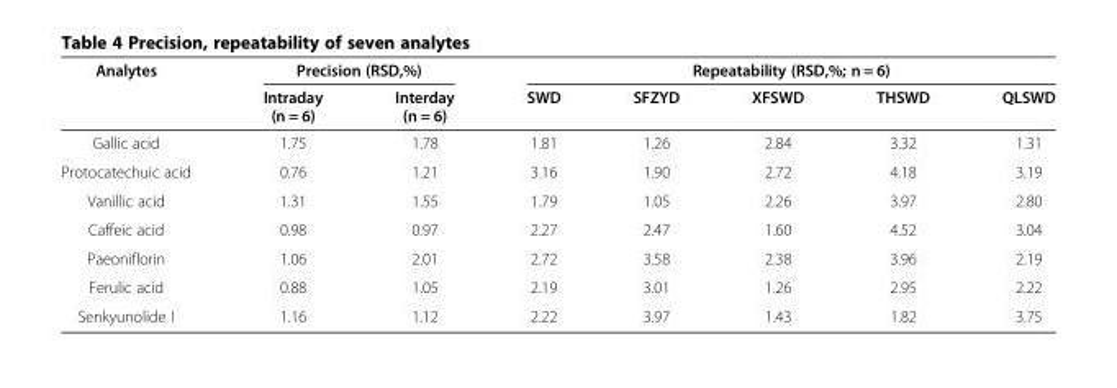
<table><thead><tr><td rowspan="2">Analytes</td><td colspan="2">Precision (RSD,%)</td><td colspan="5">Repeatability (RSD,%; n = 6)</td></tr><tr><td>Intraday (n = 6)</td><td>Interday (n = 6)</td><td>SWD</td><td>SFZYD</td><td>XFSWD</td><td>THSWD</td><td>QLSWD</td></tr></thead><tbody><tr><td>Gallic acid</td><td>1.75</td><td>1.78</td><td>1.81</td><td>1.26</td><td>2.84</td><td>3.32</td><td>1.31</td></tr><tr><td>Protocatechuic acid</td><td>0.76</td><td>1.21</td><td>3.16</td><td>1.90</td><td>2.72</td><td>4.18</td><td>3.19</td></tr><tr><td>Vanillic acid</td><td>1.31</td><td>1.55</td><td>1.79</td><td>1.05</td><td>2.26</td><td>3.97</td><td>2.80</td></tr><tr><td>Caffeic acid</td><td>0.98</td><td>0.97</td><td>2.27</td><td>2.47</td><td>1.60</td><td>4.52</td><td>3.04</td></tr><tr><td>Paeoniflorin</td><td>1.06</td><td>2.01</td><td>2.72</td><td>3.58</td><td>2.38</td><td>3.96</td><td>2.19</td></tr><tr><td>Ferulic acid</td><td>0.88</td><td>1.05</td><td>2.19</td><td>3.01</td><td>1.26</td><td>2.95</td><td>2.22</td></tr><tr><td>Senkyunolide I</td><td>1.16</td><td>1.12</td><td>2.22</td><td>3.97</td><td>1.43</td><td>1.82</td><td>3.75</td></tr></tbody></table>